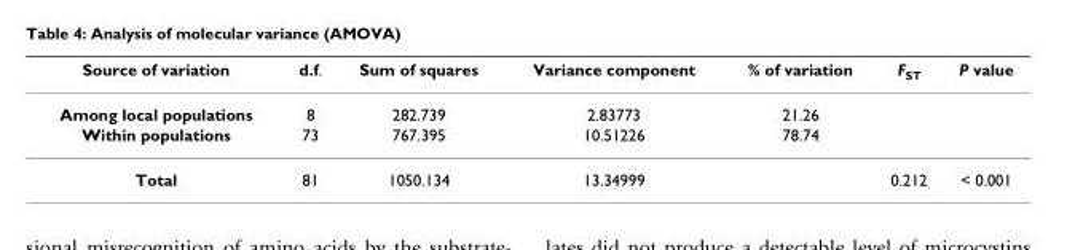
<table><thead><tr><td>Source of variation</td><td>d.f.</td><td>Sum of squares</td><td>Variance component</td><td>% of variation</td><td>F<sub>ST</sub></td><td>P value</td></tr></thead><tbody><tr><td>Among local populations</td><td>8</td><td>282.739</td><td>2.83773</td><td>21.26</td><td></td><td></td></tr><tr><td>Within populations</td><td>73</td><td>767.395</td><td>10.51226</td><td>78.74</td><td></td><td></td></tr><tr><td>Total</td><td>81</td><td>1050.134</td><td>13.34999</td><td></td><td>0.212</td><td>&lt; 0.001</td></tr></tbody></table>